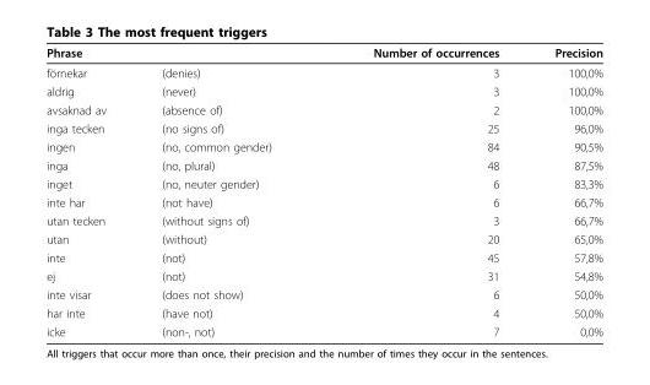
<table><thead><tr><td>Phrase</td><td></td><td>Number of occurrences</td><td>Precision</td></tr></thead><tbody><tr><td>förnekar</td><td>(denies)</td><td>3</td><td>100,0%</td></tr><tr><td>aldrig</td><td>(never)</td><td>3</td><td>100,0%</td></tr><tr><td>avsaknad av</td><td>(absence of)</td><td>2</td><td>100,0%</td></tr><tr><td>inga tecken</td><td>(no signs of)</td><td>25</td><td>96,0%</td></tr><tr><td>ingen</td><td>(no, common gender)</td><td>84</td><td>90,5%</td></tr><tr><td>inga</td><td>(no, plural)</td><td>48</td><td>87,5%</td></tr><tr><td>inget</td><td>(no, neuter gender)</td><td>6</td><td>83,3%</td></tr><tr><td>inte har</td><td>(not have)</td><td>6</td><td>66,7%</td></tr><tr><td>utan tecken</td><td>(without signs of)</td><td>3</td><td>66,7%</td></tr><tr><td>utan</td><td>(without)</td><td>20</td><td>65,0%</td></tr><tr><td>inte</td><td>(not)</td><td>45</td><td>57,8%</td></tr><tr><td>ej</td><td>(not)</td><td>31</td><td>54,8%</td></tr><tr><td>inte visar</td><td>(does not show)</td><td>6</td><td>50,0%</td></tr><tr><td>har inte</td><td>(have not)</td><td>4</td><td>50,0%</td></tr><tr><td>icke</td><td>(non-, not)</td><td>7</td><td>0,0%</td></tr></tbody></table>